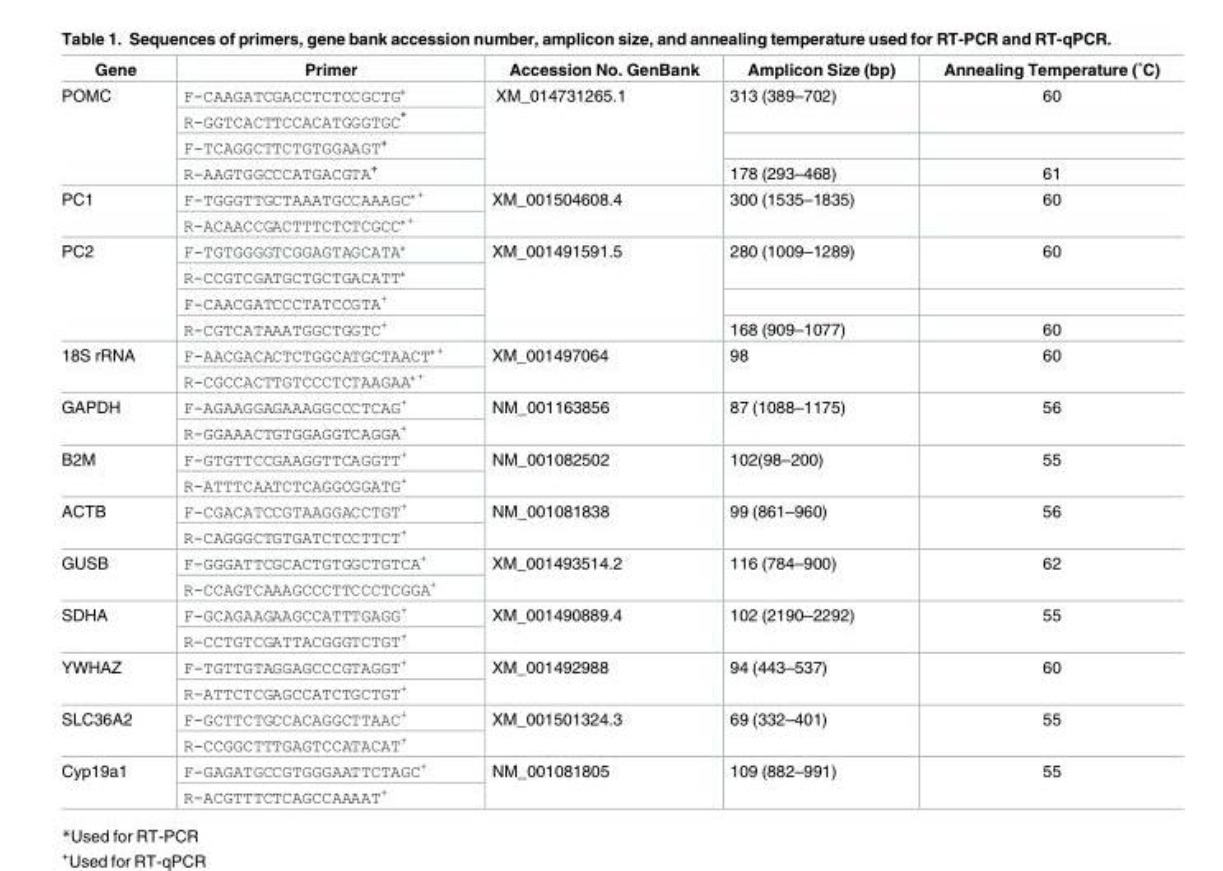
<table><thead><tr><td>Gene</td><td>Primer</td><td>Accession No. GenBank</td><td>Amplicon Size (bp)</td><td>Annealing Temperature (˚C)</td></tr></thead><tbody><tr><td rowspan="4">POMC</td><td>F-CAAGATCGACCTCTCCGCTG*</td><td rowspan="4">XM_014731265.1</td><td rowspan="2">313 (389–702)</td><td rowspan="2">60</td></tr><tr><td>R-GGTCACTTCCACATGGGTGC*</td></tr><tr><td>F-TCAGGCTTCTGTGGAAGT<sup>+</sup></td><td></td><td></td></tr><tr><td>R-AAGTGGCCCATGACGTA<sup>+</sup></td><td>178 (293–468)</td><td>61</td></tr><tr><td rowspan="2">PC1</td><td>F-TGGGTTGCTAAATGCCAAAGC*<sup>+</sup></td><td rowspan="2">XM_001504608.4</td><td rowspan="2">300 (1535–1835)</td><td rowspan="2">60</td></tr><tr><td>R-ACAACCGACTTTCTCTCGCC*<sup>+</sup></td></tr><tr><td rowspan="4">PC2</td><td>F-TGTGGGGTCGGAGTAGCATA*</td><td rowspan="4">XM_001491591.5</td><td rowspan="2">280 (1009–1289)</td><td rowspan="2">60</td></tr><tr><td>R-CCGTCGATGCTGCTGACATT*</td></tr><tr><td>F-CAACGATCCCTATCCGTA<sup>+</sup></td><td></td><td></td></tr><tr><td>R-CGTCATAAATGGCTGGTC<sup>+</sup></td><td>168 (909–1077)</td><td>60</td></tr><tr><td rowspan="2">18S rRNA</td><td>F-AACGACACTCTGGCATGCTAACT*<sup>+</sup></td><td rowspan="2">XM_001497064</td><td rowspan="2">98</td><td rowspan="2">60</td></tr><tr><td>R-CGCCACTTGTCCCTCTAAGAA*<sup>+</sup></td></tr><tr><td rowspan="2">GAPDH</td><td>F-AGAAGGAGAAAGGCCCTCAG<sup>+</sup></td><td rowspan="2">NM_001163856</td><td rowspan="2">87 (1088–1175)</td><td rowspan="2">56</td></tr><tr><td>R-GGAAACTGTGGAGGTCAGGA<sup>+</sup></td></tr><tr><td rowspan="2">B2M</td><td>F-GTGTTCCGAAGGTTCAGGTT<sup>+</sup></td><td rowspan="2">NM_001082502</td><td rowspan="2">102(98–200)</td><td rowspan="2">55</td></tr><tr><td>R-ATTTCAATCTCAGGCGGATG<sup>+</sup></td></tr><tr><td rowspan="2">ACTB</td><td>F-CGACATCCGTAAGGACCTGT<sup>+</sup></td><td rowspan="2">NM_001081838</td><td rowspan="2">99 (861–960)</td><td rowspan="2">56</td></tr><tr><td>R-CAGGGCTGTGATCTCCTTCT<sup>+</sup></td></tr><tr><td rowspan="2">GUSB</td><td>F-GGGATTCGCACTGTGGCTGTCA<sup>+</sup></td><td rowspan="2">XM_001493514.2</td><td rowspan="2">116 (784–900)</td><td rowspan="2">62</td></tr><tr><td>R-CCAGTCAAAGCCCTTCCCTCGGA<sup>+</sup></td></tr><tr><td rowspan="2">SDHA</td><td>F-GCAGAAGAAGCCATTTGAGG<sup>+</sup></td><td rowspan="2">XM_001490889.4</td><td rowspan="2">102 (2190–2292)</td><td rowspan="2">55</td></tr><tr><td>R-CCTGTCGATTACGGGTCTGT<sup>+</sup></td></tr><tr><td rowspan="2">YWHAZ</td><td>F-TGTTGTAGGAGCCCGTAGGT<sup>+</sup></td><td rowspan="2">XM_001492988</td><td rowspan="2">94 (443–537)</td><td rowspan="2">60</td></tr><tr><td>R-ATTCTCGAGCCATCTGCTGT<sup>+</sup></td></tr><tr><td rowspan="2">SLC36A2</td><td>F-GCTTCTGCCACAGGCTTAAC<sup>+</sup></td><td rowspan="2">XM_001501324.3</td><td rowspan="2">69 (332–401)</td><td rowspan="2">55</td></tr><tr><td>R-CCGGCTTTGAGTCCATACAT<sup>+</sup></td></tr><tr><td rowspan="2">Cyp19a1</td><td>F-GAGATGCCGTGGGAATTCTAGC<sup>+</sup></td><td rowspan="2">NM_001081805</td><td rowspan="2">109 (882–991)</td><td rowspan="2">55</td></tr><tr><td>R-ACGTTTCTCAGCCAAAAT<sup>+</sup></td></tr></tbody></table>